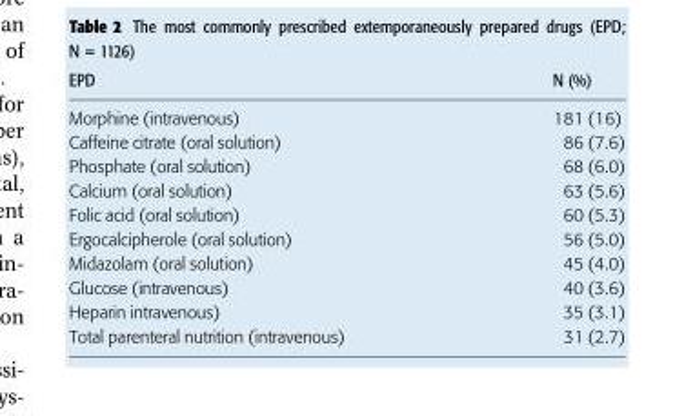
<table><thead><tr><td>EPD</td><td>N (%)</td></tr></thead><tbody><tr><td>Morphine (intravenous)</td><td>181 (16)</td></tr><tr><td>Caffeine citrate (oral solution)</td><td>86 (7.6)</td></tr><tr><td>Phosphate (oral solution)</td><td>68 (6.0)</td></tr><tr><td>Calcium (oral solution)</td><td>63 (5.6)</td></tr><tr><td>Folic acid (oral solution)</td><td>60 (5.3)</td></tr><tr><td>Ergocalcipherole (oral solution)</td><td>56 (5.0)</td></tr><tr><td>Midazolam (oral solution)</td><td>45 (4.0)</td></tr><tr><td>Glucose (intravenous)</td><td>40 (3.6)</td></tr><tr><td>Heparin intravenous)</td><td>35 (3.1)</td></tr><tr><td>Total parenteral nutrition (intravenous)</td><td>31 (2.7)</td></tr></tbody></table>